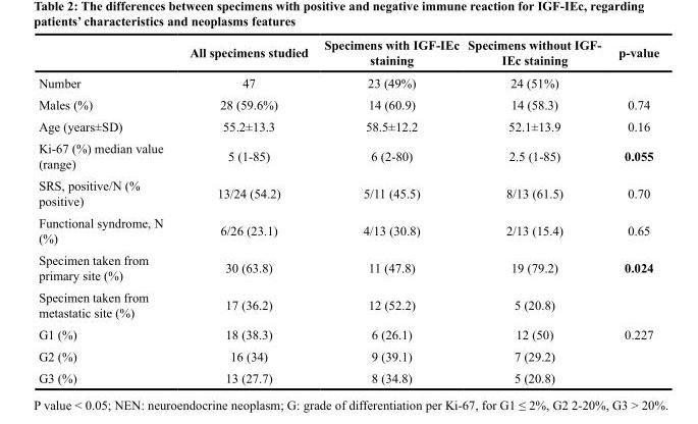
<table><thead><tr><td></td><td>All specimens studied</td><td>Specimens with IGF-IEc staining</td><td>Specimens without IGF- IEc staining</td><td>p-value</td></tr></thead><tbody><tr><td>Number</td><td>47</td><td>23 (49%)</td><td>24 (51%)</td><td></td></tr><tr><td>Males (%)</td><td>28 (59.6%)</td><td>14 (60.9)</td><td>14 (58.3)</td><td>0.74</td></tr><tr><td>Age (years±SD)</td><td>55.2±13.3</td><td>58.5±12.2</td><td>52.1±13.9</td><td>0.16</td></tr><tr><td>Ki-67 (%) median value (range)</td><td>5 (1-85)</td><td>6 (2-80)</td><td>2.5 (1-85)</td><td>0.055</td></tr><tr><td>SRS, positive/N (% positive)</td><td>13/24 (54.2)</td><td>5/11 (45.5)</td><td>8/13 (61.5)</td><td>0.70</td></tr><tr><td>Functional syndrome, N (%)</td><td>6/26 (23.1)</td><td>4/13 (30.8)</td><td>2/13 (15.4)</td><td>0.65</td></tr><tr><td>Specimen taken from primary site (%)</td><td>30 (63.8)</td><td>11 (47.8)</td><td>19 (79.2)</td><td>0.024</td></tr><tr><td>Specimen taken from metastatic site (%)</td><td>17 (36.2)</td><td>12 (52.2)</td><td>5 (20.8)</td><td></td></tr><tr><td>G1 (%)</td><td>18 (38.3)</td><td>6 (26.1)</td><td>12 (50)</td><td>0.227</td></tr><tr><td>G2 (%)</td><td>16 (34)</td><td>9 (39.1)</td><td>7 (29.2)</td><td></td></tr><tr><td>G3 (%)</td><td>13 (27.7)</td><td>8 (34.8)</td><td>5 (20.8)</td><td></td></tr></tbody></table>